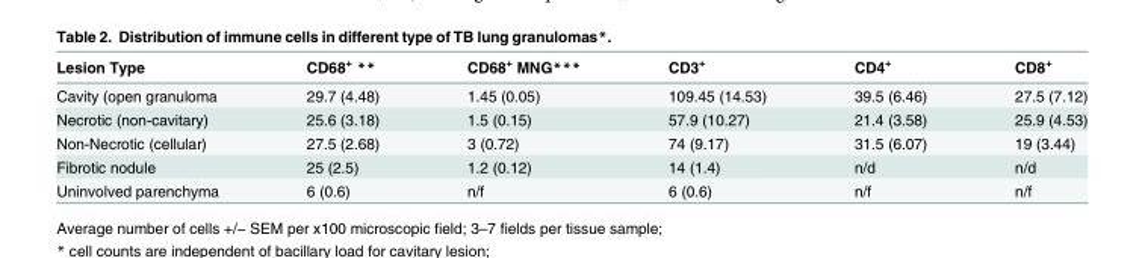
<table><thead><tr><td>Lesion Type</td><td>CD68<sup>+</sup> **</td><td>CD68<sup>+</sup> MNG***</td><td>CD3<sup>+</sup></td><td>CD4<sup>+</sup></td><td>CD8<sup>+</sup></td></tr></thead><tbody><tr><td>Cavity (open granuloma</td><td>29.7 (4.48)</td><td>1.45 (0.05)</td><td>109.45 (14.53)</td><td>39.5 (6.46)</td><td>27.5 (7.12)</td></tr><tr><td>Necrotic (non-cavitary)</td><td>25.6 (3.18)</td><td>1.5 (0.15)</td><td>57.9 (10.27)</td><td>21.4 (3.58)</td><td>25.9 (4.53)</td></tr><tr><td>Non-Necrotic (cellular)</td><td>27.5 (2.68)</td><td>3 (0.72)</td><td>74 (9.17)</td><td>31.5 (6.07)</td><td>19 (3.44)</td></tr><tr><td>Fibrotic nodule</td><td>25 (2.5)</td><td>1.2 (0.12)</td><td>14 (1.4)</td><td>n/d</td><td>n/d</td></tr><tr><td>Uninvolved parenchyma</td><td>6 (0.6)</td><td>n/f</td><td>6 (0.6)</td><td>n/f</td><td>n/f</td></tr></tbody></table>